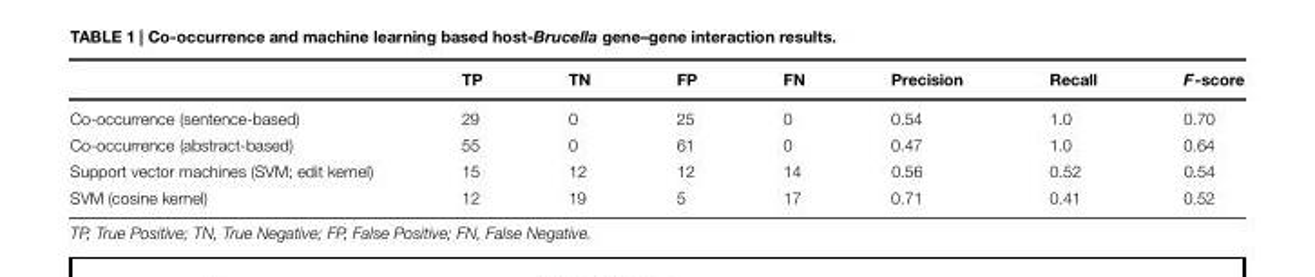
<table><thead><tr><td></td><td>TP</td><td>TN</td><td>FP</td><td>FN</td><td>Precision</td><td>Recall</td><td>F-score</td></tr></thead><tbody><tr><td>Co-occurrence (sentence-based)</td><td>29</td><td>0</td><td>25</td><td>0</td><td>0.54</td><td>1.0</td><td>0.70</td></tr><tr><td>Co-occurrence (abstract-based)</td><td>55</td><td>0</td><td>61</td><td>0</td><td>0.47</td><td>1.0</td><td>0.64</td></tr><tr><td>Support vector machines (SVM; edit kernel)</td><td>15</td><td>12</td><td>12</td><td>14</td><td>0.56</td><td>0.52</td><td>0.54</td></tr><tr><td>SVM (cosine kernel)</td><td>12</td><td>19</td><td>5</td><td>17</td><td>0.71</td><td>0.41</td><td>0.52</td></tr></tbody></table>